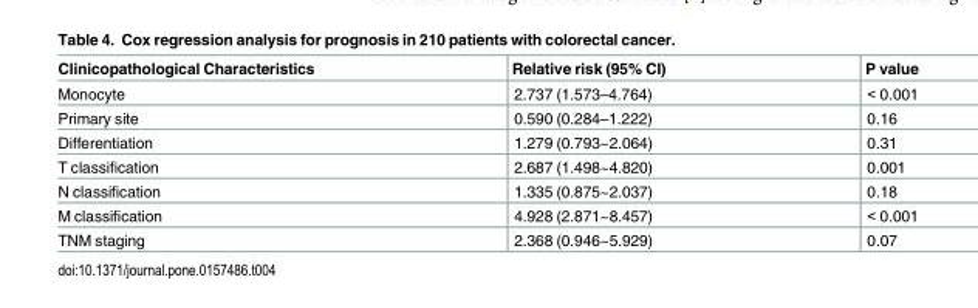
<table><thead><tr><td>Clinicopathological Characteristics</td><td>Relative risk (95% CI)</td><td>P value</td></tr></thead><tbody><tr><td>Monocyte</td><td>2.737 (1.573–4.764)</td><td>&lt; 0.001</td></tr><tr><td>Primary site</td><td>0.590 (0.284–1.222)</td><td>0.16</td></tr><tr><td>Differentiation</td><td>1.279 (0.793~2.064)</td><td>0.31</td></tr><tr><td>T classification</td><td>2.687 (1.498~4.820)</td><td>0.001</td></tr><tr><td>N classification</td><td>1.335 (0.875~2.037)</td><td>0.18</td></tr><tr><td>M classification</td><td>4.928 (2.871~8.457)</td><td>&lt; 0.001</td></tr><tr><td>TNM staging</td><td>2.368 (0.946~5.929)</td><td>0.07</td></tr></tbody></table>